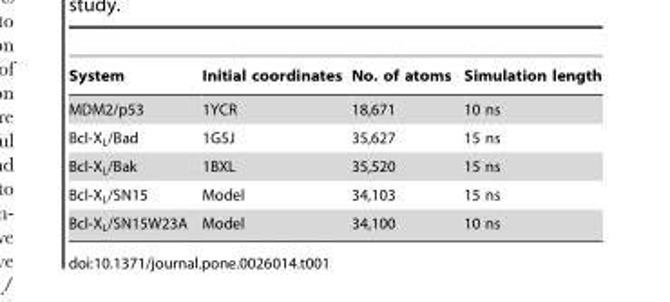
<table><thead><tr><td>System</td><td>Initial coordinates</td><td>No. of atoms</td><td>Simulation length</td></tr></thead><tbody><tr><td>MDM2/p53</td><td>1YCR</td><td>18,671</td><td>10 ns</td></tr><tr><td>Bcl-X<sub>L</sub>/Bad</td><td>1G5J</td><td>35,627</td><td>15 ns</td></tr><tr><td>Bcl-X<sub>L</sub>/Bak</td><td>1BXL</td><td>35,520</td><td>15 ns</td></tr><tr><td>Bcl-X<sub>L</sub>/SN15</td><td>Model</td><td>34,103</td><td>15 ns</td></tr><tr><td>Bcl-X<sub>L</sub>/SN15W23A</td><td>Model</td><td>34,100</td><td>10 ns</td></tr></tbody></table>